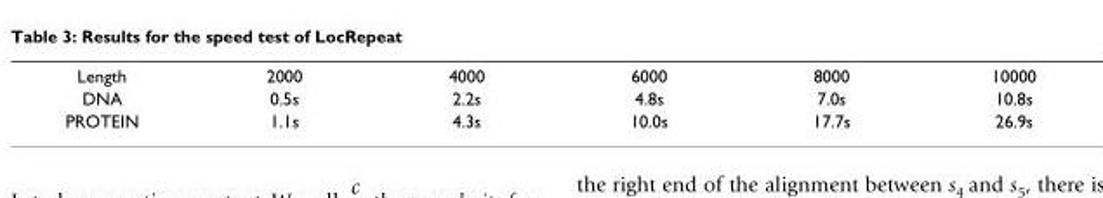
<table><tbody><tr><td>Length</td><td>2000</td><td>4000</td><td>6000</td><td>8000</td><td>10000</td></tr><tr><td>DNA</td><td>0.5s</td><td>2.2s</td><td>4.8s</td><td>7.0s</td><td>10.8s</td></tr><tr><td>PROTEIN</td><td>1.1s</td><td>4.3s</td><td>10.0s</td><td>17.7s</td><td>26.9s</td></tr></tbody></table>